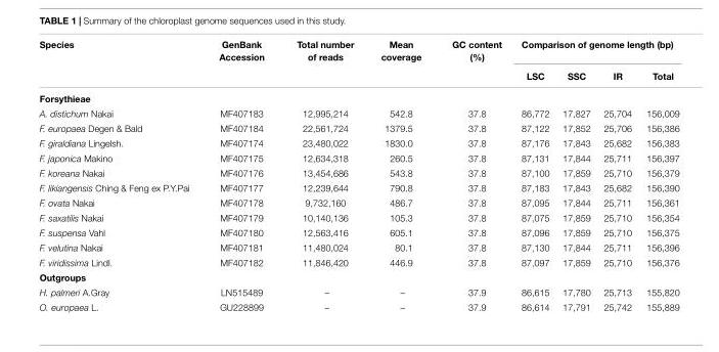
<table><thead><tr><td rowspan="2">Species</td><td rowspan="2">GenBank Accession</td><td rowspan="2">Total number of reads</td><td rowspan="2">Mean coverage</td><td rowspan="2">GC content (%)</td><td colspan="4">Comparison of genome length (bp)</td></tr><tr><td>LSC</td><td>SSC</td><td>IR</td><td>Total</td></tr></thead><tbody><tr><td colspan="9">Forsythieae</td></tr><tr><td>A. distichum Nakai</td><td>MF407183</td><td>12,995,214</td><td>542.8</td><td>37.8</td><td>86,772</td><td>17,827</td><td>25,704</td><td>156,009</td></tr><tr><td>F. europaea Degen &amp; Bald</td><td>MF407184</td><td>22,561,724</td><td>1379.5</td><td>37.8</td><td>87,122</td><td>17,852</td><td>25,706</td><td>156,386</td></tr><tr><td>F. giraldiana Lingelsh.</td><td>MF407174</td><td>23,480,022</td><td>1830.0</td><td>37.8</td><td>87,176</td><td>17,843</td><td>25,682</td><td>156,383</td></tr><tr><td>F. japonica Makino</td><td>MF407175</td><td>12,634,318</td><td>260.5</td><td>37.8</td><td>87,131</td><td>17,844</td><td>25,711</td><td>156,397</td></tr><tr><td>F. koreana Nakai</td><td>MF407176</td><td>13,454,686</td><td>543.8</td><td>37.8</td><td>87,100</td><td>17,859</td><td>25,710</td><td>156,379</td></tr><tr><td>F. likiangensis Ching &amp; Feng ex P.Y.Pai</td><td>MF407177</td><td>12,239,644</td><td>790.8</td><td>37.8</td><td>87,183</td><td>17,843</td><td>25,682</td><td>156,390</td></tr><tr><td>F. ovata Nakai</td><td>MF407178</td><td>9,732,160</td><td>486.7</td><td>37.8</td><td>87,095</td><td>17,844</td><td>25,711</td><td>156,361</td></tr><tr><td>F. saxatilis Nakai</td><td>MF407179</td><td>10,140,136</td><td>105.3</td><td>37.8</td><td>87,075</td><td>17,859</td><td>25,710</td><td>156,354</td></tr><tr><td>F. suspensa Vahl</td><td>MF407180</td><td>12,563,416</td><td>605.1</td><td>37.8</td><td>87,096</td><td>17,859</td><td>25,710</td><td>156,375</td></tr><tr><td>F. velutina Nakai</td><td>MF407181</td><td>11,480,024</td><td>80.1</td><td>37.8</td><td>87,130</td><td>17,844</td><td>25,711</td><td>156,396</td></tr><tr><td>F. viridissima Lindl.</td><td>MF407182</td><td>11,846,420</td><td>446.9</td><td>37.8</td><td>87,097</td><td>17,859</td><td>25,710</td><td>156,376</td></tr><tr><td colspan="9">Outgroups</td></tr><tr><td>H. palmeri A.Gray</td><td>LN515489</td><td>–</td><td>–</td><td>37.9</td><td>86,615</td><td>17,780</td><td>25,713</td><td>155,820</td></tr><tr><td>O. europaea L.</td><td>GU228899</td><td>–</td><td>–</td><td>37.9</td><td>86,614</td><td>17,791</td><td>25,742</td><td>155,889</td></tr></tbody></table>